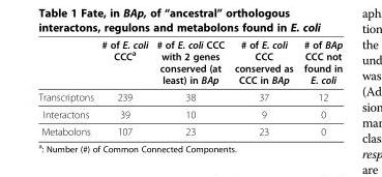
<table><thead><tr><td></td><td># of E. coli CCC<sup>a</sup></td><td># of E. coli CCC with 2 genes conserved (at least) in BAp</td><td># of E. coli CCC conserved as CCC in BAp</td><td># of BAp CCC not found in E. coli</td></tr></thead><tbody><tr><td>Transcriptons</td><td>239</td><td>38</td><td>37</td><td>12</td></tr><tr><td>Interactons</td><td>39</td><td>10</td><td>9</td><td>0</td></tr><tr><td>Metabolons</td><td>107</td><td>23</td><td>23</td><td>0</td></tr></tbody></table>